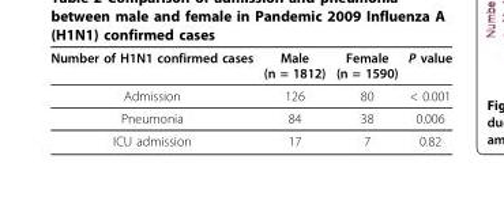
<table><thead><tr><td>Number of H1N1 confirmed cases</td><td>Male (n = 1812)</td><td>Female (n = 1590)</td><td>P value</td></tr></thead><tbody><tr><td>Admission</td><td>126</td><td>80</td><td>&lt; 0.001</td></tr><tr><td>Pneumonia</td><td>84</td><td>38</td><td>0.006</td></tr><tr><td>ICU admission</td><td>17</td><td>7</td><td>0.82</td></tr></tbody></table>